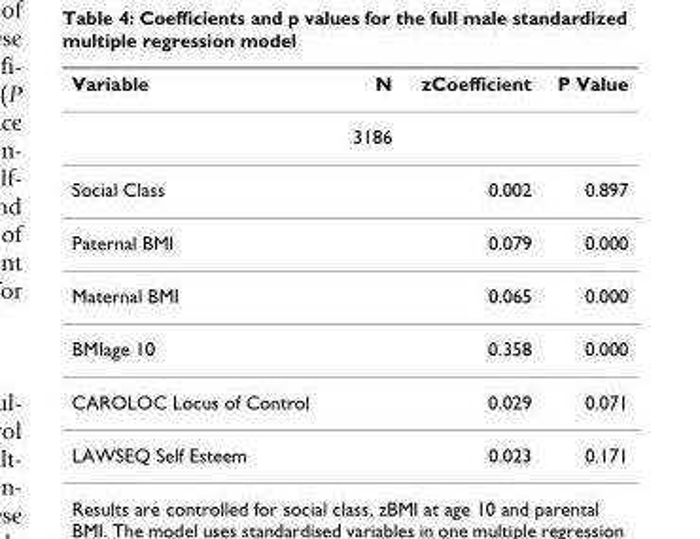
<table><thead><tr><td>Variable</td><td>N</td><td>zCoefficient</td><td>P Value</td></tr></thead><tbody><tr><td></td><td>3186</td><td></td><td></td></tr><tr><td>Social Class</td><td></td><td>0.002</td><td>0.897</td></tr><tr><td>Paternal BMI</td><td></td><td>0.079</td><td>0.000</td></tr><tr><td>Maternal BMI</td><td></td><td>0.065</td><td>0.000</td></tr><tr><td>BMIage 10</td><td></td><td>0.358</td><td>0.000</td></tr><tr><td>CAROLOC Locus of Control</td><td></td><td>0.029</td><td>0.071</td></tr><tr><td>LAWSEQ Self Esteem</td><td></td><td>0.023</td><td>0.171</td></tr></tbody></table>